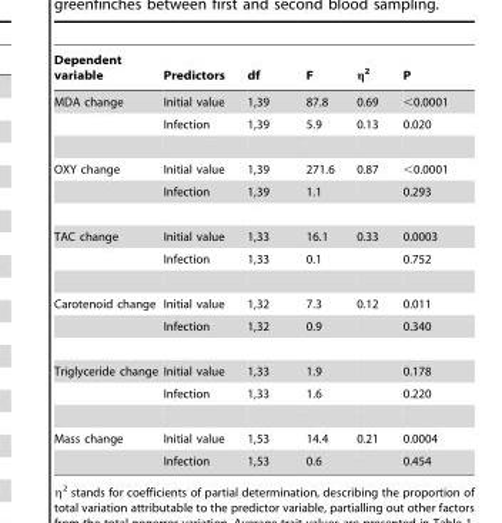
<table><thead><tr><td>Dependent variable</td><td>Predictors</td><td>df</td><td>F</td><td>η<sup>2</sup></td><td>P</td></tr></thead><tbody><tr><td rowspan="2">MDA change</td><td>Initial value</td><td>1,39</td><td>87.8</td><td>0.69</td><td>&lt;0.0001</td></tr><tr><td>Infection</td><td>1,39</td><td>5.9</td><td>0.13</td><td>0.020</td></tr><tr><td rowspan="2">OXY change</td><td>Initial value</td><td>1,39</td><td>271.6</td><td>0.87</td><td>&lt;0.0001</td></tr><tr><td>Infection</td><td>1,39</td><td>1.1</td><td></td><td>0.293</td></tr><tr><td rowspan="2">TAC change</td><td>Initial value</td><td>1,33</td><td>16.1</td><td>0.33</td><td>0.0003</td></tr><tr><td>Infection</td><td>1,33</td><td>0.1</td><td></td><td>0.752</td></tr><tr><td rowspan="2">Carotenoid change</td><td>Initial value</td><td>1,32</td><td>7.3</td><td>0.12</td><td>0.011</td></tr><tr><td>Infection</td><td>1,32</td><td>0.9</td><td></td><td>0.340</td></tr><tr><td rowspan="2">Triglyceride change</td><td>Initial value</td><td>1,33</td><td>1.9</td><td></td><td>0.178</td></tr><tr><td>Infection</td><td>1,33</td><td>1.6</td><td></td><td>0.220</td></tr><tr><td rowspan="2">Mass change</td><td>Initial value</td><td>1,53</td><td>14.4</td><td>0.21</td><td>0.0004</td></tr><tr><td>Infection</td><td>1,53</td><td>0.6</td><td></td><td>0.454</td></tr></tbody></table>